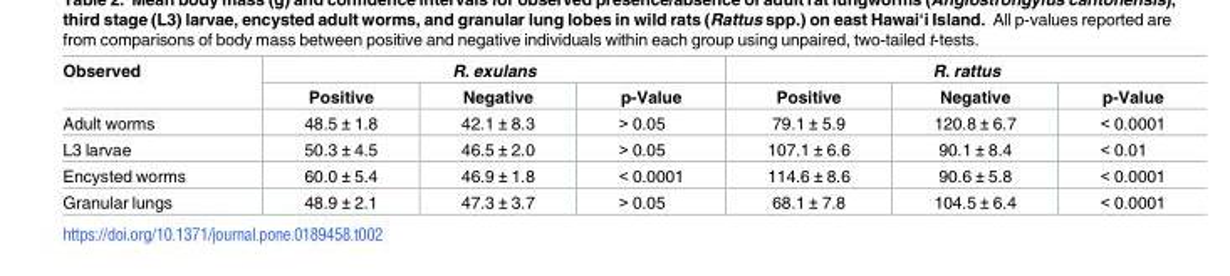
<table><thead><tr><td rowspan="2">Observed</td><td colspan="3">R. exulans</td><td colspan="3">R. rattus</td></tr><tr><td>Positive</td><td>Negative</td><td>p-Value</td><td>Positive</td><td>Negative</td><td>p-Value</td></tr></thead><tbody><tr><td>Adult worms</td><td>48.5 ± 1.8</td><td>42.1 ± 8.3</td><td>&gt; 0.05</td><td>79.1 ± 5.9</td><td>120.8 ± 6.7</td><td>&lt; 0.0001</td></tr><tr><td>L3 larvae</td><td>50.3 ± 4.5</td><td>46.5 ± 2.0</td><td>&gt; 0.05</td><td>107.1 ± 6.6</td><td>90.1 ± 8.4</td><td>&lt; 0.01</td></tr><tr><td>Encysted worms</td><td>60.0 ± 5.4</td><td>46.9 ± 1.8</td><td>&lt; 0.0001</td><td>114.6 ± 8.6</td><td>90.6 ± 5.8</td><td>&lt; 0.0001</td></tr><tr><td>Granular lungs</td><td>48.9 ± 2.1</td><td>47.3 ± 3.7</td><td>&gt; 0.05</td><td>68.1 ± 7.8</td><td>104.5 ± 6.4</td><td>&lt; 0.0001</td></tr></tbody></table>